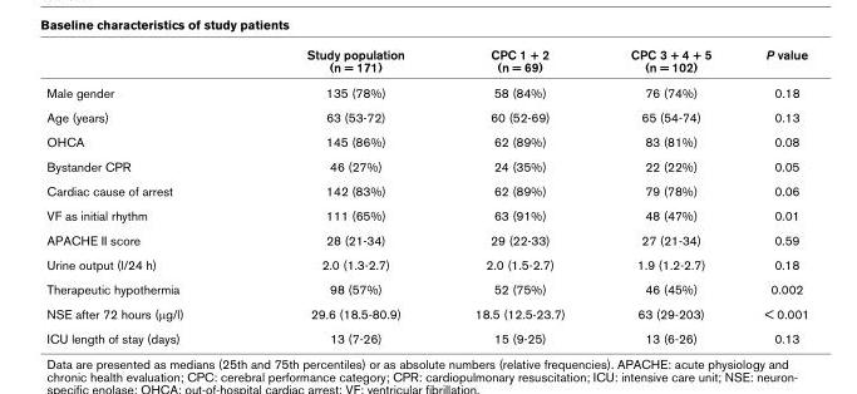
<table><thead><tr><td></td><td>Study population (n = 171)</td><td>CPC 1 + 2 (n = 69)</td><td>CPC 3 + 4 + 5 (n = 102)</td><td>P value</td></tr></thead><tbody><tr><td>Male gender</td><td>135 (78%)</td><td>58 (84%)</td><td>76 (74%)</td><td>0.18</td></tr><tr><td>Age (years)</td><td>63 (53-72)</td><td>60 (52-69)</td><td>65 (54-74)</td><td>0.13</td></tr><tr><td>OHCA</td><td>145 (86%)</td><td>62 (89%)</td><td>83 (81%)</td><td>0.08</td></tr><tr><td>Bystander CPR</td><td>46 (27%)</td><td>24 (35%)</td><td>22 (22%)</td><td>0.05</td></tr><tr><td>Cardiac cause of arrest</td><td>142 (83%)</td><td>62 (89%)</td><td>79 (78%)</td><td>0.06</td></tr><tr><td>VF as initial rhythm</td><td>111 (65%)</td><td>63 (91%)</td><td>48 (47%)</td><td>0.01</td></tr><tr><td>APACHE II score</td><td>28 (21-34)</td><td>29 (22-33)</td><td>27 (21-34)</td><td>0.59</td></tr><tr><td>Urine output (l/24 h)</td><td>2.0 (1.3-2.7)</td><td>2.0 (1.5-2.7)</td><td>1.9 (1.2-2.7)</td><td>0.18</td></tr><tr><td>Therapeutic hypothermia</td><td>98 (57%)</td><td>52 (75%)</td><td>46 (45%)</td><td>0.002</td></tr><tr><td>NSE after 72 hours (μg/l)</td><td>29.6 (18.5-80.9)</td><td>18.5 (12.5-23.7)</td><td>63 (29-203)</td><td>&lt; 0.001</td></tr><tr><td>ICU length of stay (days)</td><td>13 (7-26)</td><td>15 (9-25)</td><td>13 (6-26)</td><td>0.13</td></tr></tbody></table>